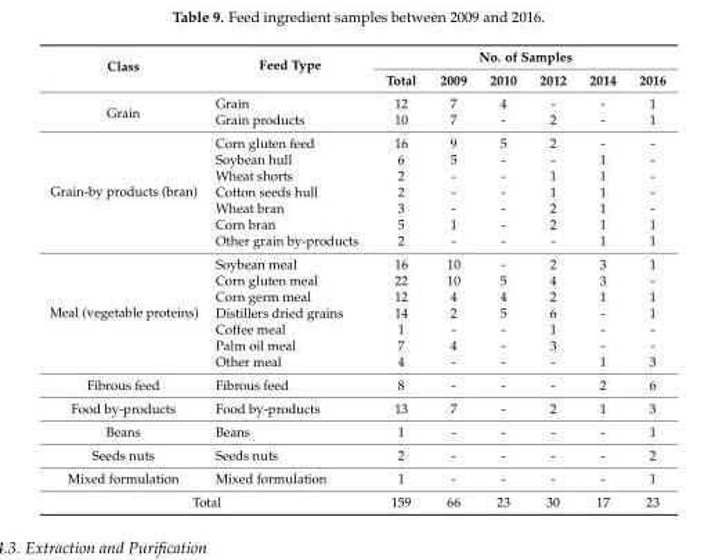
<table><thead><tr><td rowspan="2">Class</td><td rowspan="2">Feed Type</td><td colspan="6">No. of Samples</td></tr><tr><td>Total</td><td>2009</td><td>2010</td><td>2012</td><td>2014</td><td>2016</td></tr></thead><tbody><tr><td rowspan="2">Grain</td><td>Grain</td><td>12</td><td>7</td><td>4</td><td>-</td><td>-</td><td>1</td></tr><tr><td>Grain products</td><td>10</td><td>7</td><td>-</td><td>2</td><td>-</td><td>1</td></tr><tr><td rowspan="7">Grain-by products (bran)</td><td>Corn gluten feed</td><td>16</td><td>9</td><td>5</td><td>2</td><td>-</td><td>-</td></tr><tr><td>Soybean hull</td><td>6</td><td>5</td><td>-</td><td>-</td><td>1</td><td>-</td></tr><tr><td>Wheat shorts</td><td>2</td><td>-</td><td>-</td><td>1</td><td>1</td><td>-</td></tr><tr><td>Cotton seeds hull</td><td>2</td><td>-</td><td>-</td><td>1</td><td>1</td><td>-</td></tr><tr><td>Wheat bran</td><td>3</td><td>-</td><td>-</td><td>2</td><td>1</td><td>-</td></tr><tr><td>Corn bran</td><td>5</td><td>1</td><td>-</td><td>2</td><td>1</td><td>1</td></tr><tr><td>Other grain by-products</td><td>2</td><td>-</td><td>-</td><td>-</td><td>1</td><td>1</td></tr><tr><td rowspan="7">Meal (vegetable proteins)</td><td>Soybean meal</td><td>16</td><td>10</td><td>-</td><td>2</td><td>3</td><td>1</td></tr><tr><td>Corn gluten meal</td><td>22</td><td>10</td><td>5</td><td>4</td><td>3</td><td>-</td></tr><tr><td>Corn germ meal</td><td>12</td><td>4</td><td>4</td><td>2</td><td>1</td><td>1</td></tr><tr><td>Distillers dried grains</td><td>14</td><td>2</td><td>5</td><td>6</td><td>-</td><td>1</td></tr><tr><td>Coffee meal</td><td>1</td><td>-</td><td>-</td><td>1</td><td>-</td><td>-</td></tr><tr><td>Palm oil meal</td><td>7</td><td>4</td><td>-</td><td>3</td><td>-</td><td>-</td></tr><tr><td>Other meal</td><td>4</td><td>-</td><td>-</td><td>-</td><td>1</td><td>3</td></tr><tr><td>Fibrous feed</td><td>Fibrous feed</td><td>8</td><td>-</td><td>-</td><td>-</td><td>2</td><td>6</td></tr><tr><td>Food by-products</td><td>Food by-products</td><td>13</td><td>7</td><td>-</td><td>2</td><td>1</td><td>3</td></tr><tr><td>Beans</td><td>Beans</td><td>1</td><td>-</td><td>-</td><td>-</td><td>-</td><td>1</td></tr><tr><td>Seeds nuts</td><td>Seeds nuts</td><td>2</td><td>-</td><td>-</td><td>-</td><td>-</td><td>2</td></tr><tr><td>Mixed formulation</td><td>Mixed formulation</td><td>1</td><td>-</td><td>-</td><td>-</td><td>-</td><td>1</td></tr><tr><td colspan="2">Total</td><td>159</td><td>66</td><td>23</td><td>30</td><td>17</td><td>23</td></tr></tbody></table>